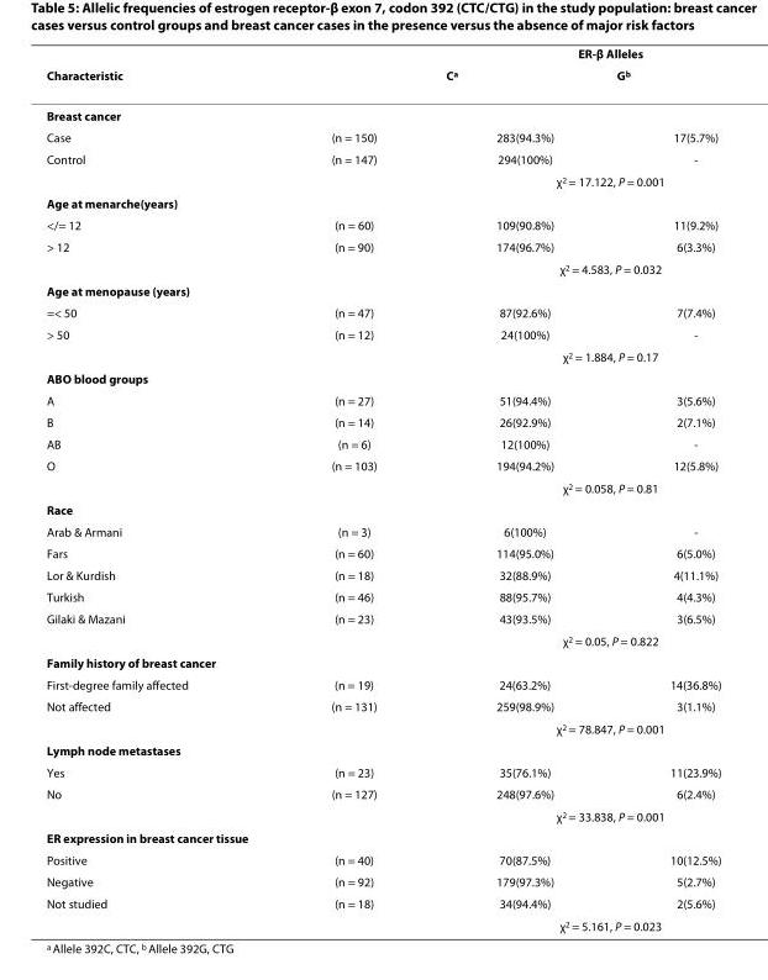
<table><thead><tr><td rowspan="2">Characteristic</td><td rowspan="2"></td><td colspan="2">ER-β Alleles</td></tr><tr><td>C<sup>a</sup></td><td>G<sup>b</sup></td></tr></thead><tbody><tr><td colspan="4">Breast cancer</td></tr><tr><td>Case</td><td>(n = 150)</td><td>283(94.3%)</td><td>17(5.7%)</td></tr><tr><td rowspan="2">Control</td><td>(n = 147)</td><td>294(100%)</td><td>-</td></tr><tr><td></td><td colspan="2">χ<sup>2</sup> = 17.122, P = 0.001</td></tr><tr><td colspan="4">Age at menarche(years)</td></tr><tr><td>&lt;/= 12</td><td>(n = 60)</td><td>109(90.8%)</td><td>11(9.2%)</td></tr><tr><td rowspan="2">&gt; 12</td><td>(n = 90)</td><td>174(96.7%)</td><td>6(3.3%)</td></tr><tr><td></td><td colspan="2">χ<sup>2</sup> = 4.583, P = 0.032</td></tr><tr><td colspan="4">Age at menopause (years)</td></tr><tr><td>=&lt; 50</td><td>(n = 47)</td><td>87(92.6%)</td><td>7(7.4%)</td></tr><tr><td rowspan="2">&gt; 50</td><td>(n = 12)</td><td>24(100%)</td><td>-</td></tr><tr><td></td><td colspan="2">χ<sup>2</sup> = 1.884, P = 0.17</td></tr><tr><td colspan="4">ABO blood groups</td></tr><tr><td>A</td><td>(n = 27)</td><td>51(94.4%)</td><td>3(5.6%)</td></tr><tr><td>B</td><td>(n = 14)</td><td>26(92.9%)</td><td>2(7.1%)</td></tr><tr><td>AB</td><td>(n = 6)</td><td>12(100%)</td><td>-</td></tr><tr><td rowspan="2">O</td><td>(n = 103)</td><td>194(94.2%)</td><td>12(5.8%)</td></tr><tr><td></td><td colspan="2">χ<sup>2</sup> = 0.058, P = 0.81</td></tr><tr><td colspan="4">Race</td></tr><tr><td>Arab &amp; Armani</td><td>(n = 3)</td><td>6(100%)</td><td>-</td></tr><tr><td>Fars</td><td>(n = 60)</td><td>114(95.0%)</td><td>6(5.0%)</td></tr><tr><td>Lor &amp; Kurdish</td><td>(n = 18)</td><td>32(88.9%)</td><td>4(11.1%)</td></tr><tr><td>Turkish</td><td>(n = 46)</td><td>88(95.7%)</td><td>4(4.3%)</td></tr><tr><td rowspan="2">Gilaki &amp; Mazani</td><td>(n = 23)</td><td>43(93.5%)</td><td>3(6.5%)</td></tr><tr><td></td><td colspan="2">χ<sup>2</sup> = 0.05, P = 0.822</td></tr><tr><td colspan="4">Family history of breast cancer</td></tr><tr><td>First-degree family affected</td><td>(n = 19)</td><td>24(63.2%)</td><td>14(36.8%)</td></tr><tr><td rowspan="2">Not affected</td><td>(n = 131)</td><td>259(98.9%)</td><td>3(1.1%)</td></tr><tr><td></td><td colspan="2">χ<sup>2</sup> = 78.847, P = 0.001</td></tr><tr><td colspan="4">Lymph node metastases</td></tr><tr><td>Yes</td><td>(n = 23)</td><td>35(76.1%)</td><td>11(23.9%)</td></tr><tr><td rowspan="2">No</td><td>(n = 127)</td><td>248(97.6%)</td><td>6(2.4%)</td></tr><tr><td></td><td colspan="2">χ<sup>2</sup> = 33.838, P = 0.001</td></tr><tr><td colspan="4">ER expression in breast cancer tissue</td></tr><tr><td>Positive</td><td>(n = 40)</td><td>70(87.5%)</td><td>10(12.5%)</td></tr><tr><td>Negative</td><td>(n = 92)</td><td>179(97.3%)</td><td>5(2.7%)</td></tr><tr><td rowspan="2">Not studied</td><td>(n = 18)</td><td>34(94.4%)</td><td>2(5.6%)</td></tr><tr><td></td><td colspan="2">χ<sup>2</sup> = 5.161, P = 0.023</td></tr></tbody></table>